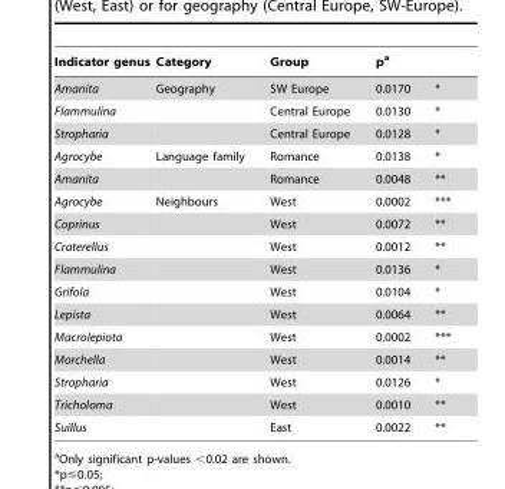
<table><thead><tr><td>Indicator genus</td><td>Category</td><td>Group</td><td>p<sup>a</sup></td><td></td></tr></thead><tbody><tr><td>Amanita</td><td>Geography</td><td>SW Europe</td><td>0.0170</td><td>*</td></tr><tr><td>Flammulina</td><td></td><td>Central Europe</td><td>0.0130</td><td>*</td></tr><tr><td>Stropharia</td><td></td><td>Central Europe</td><td>0.0128</td><td>*</td></tr><tr><td>Agrocybe</td><td>Language family</td><td>Romance</td><td>0.0138</td><td>*</td></tr><tr><td>Amanita</td><td></td><td>Romance</td><td>0.0048</td><td>**</td></tr><tr><td>Agrocybe</td><td>Neighbours</td><td>West</td><td>0.0002</td><td>***</td></tr><tr><td>Coprinus</td><td></td><td>West</td><td>0.0072</td><td>**</td></tr><tr><td>Craterellus</td><td></td><td>West</td><td>0.0012</td><td>**</td></tr><tr><td>Flammulina</td><td></td><td>West</td><td>0.0136</td><td>*</td></tr><tr><td>Grifola</td><td></td><td>West</td><td>0.0104</td><td>*</td></tr><tr><td>Lepista</td><td></td><td>West</td><td>0.0064</td><td>**</td></tr><tr><td>Macrolepiota</td><td></td><td>West</td><td>0.0002</td><td>***</td></tr><tr><td>Morchella</td><td></td><td>West</td><td>0.0014</td><td>**</td></tr><tr><td>Stropharia</td><td></td><td>West</td><td>0.0126</td><td>*</td></tr><tr><td>Tricholoma</td><td></td><td>West</td><td>0.0010</td><td>**</td></tr><tr><td>Suillus</td><td></td><td>East</td><td>0.0022</td><td>**</td></tr></tbody></table>